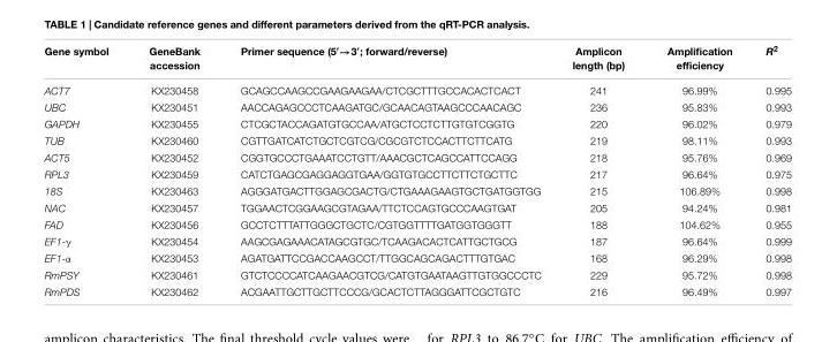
<table><thead><tr><td>Gene symbol</td><td>GeneBank accession</td><td>Primer sequence (5′→3′; forward/reverse)</td><td>Amplicon length (bp)</td><td>Amplification efficiency</td><td>R<sup>2</sup></td></tr></thead><tbody><tr><td>ACT7</td><td>KX230458</td><td>GCAGCCAAGCCGAAGAAGAA/CTCGCTTTGCCACACTCACT</td><td>241</td><td>96.99%</td><td>0.995</td></tr><tr><td>UBC</td><td>KX230451</td><td>AACCAGAGCCCTCAAGATGC/GCAACAGTAAGCCCAACAGC</td><td>236</td><td>95.83%</td><td>0.993</td></tr><tr><td>GAPDH</td><td>KX230455</td><td>CTCGCTACCAGATGTGCCAA/ATGCTCCTCTTGTGTCGGTG</td><td>220</td><td>96.02%</td><td>0.979</td></tr><tr><td>TUB</td><td>KX230460</td><td>CGTTGATCATCTGCTCGTCG/CGCGTCTCCACTTCTTCATG</td><td>219</td><td>98.11%</td><td>0.993</td></tr><tr><td>ACT5</td><td>KX230452</td><td>CGGTGCCCTGAAATCCTGTT/AAACGCTCAGCCATTCCAGG</td><td>218</td><td>95.76%</td><td>0.969</td></tr><tr><td>RPL3</td><td>KX230459</td><td>CATCTGAGCGAGGAGGTGAA/GGTGTGCCTTCTTCTGCTTC</td><td>217</td><td>96.64%</td><td>0.975</td></tr><tr><td>18S</td><td>KX230463</td><td>AGGGATGACTTGGAGCGACTG/CTGAAAGAAGTGCTGATGGTGG</td><td>215</td><td>106.89%</td><td>0.998</td></tr><tr><td>NAC</td><td>KX230457</td><td>TGGAACTCGGAAGCGTAGAA/TTCTCCAGTGCCCAAGTGAT</td><td>205</td><td>94.24%</td><td>0.981</td></tr><tr><td>FAD</td><td>KX230456</td><td>GCCTCTTTATTGGGCTGCTC/CGTGGTTTTGATGGTGGGTT</td><td>188</td><td>104.62%</td><td>0.955</td></tr><tr><td>EF1-γ</td><td>KX230454</td><td>AAGCGAGAAACATAGCGTGC/TCAAGACACTCATTGCTGCG</td><td>187</td><td>96.64%</td><td>0.999</td></tr><tr><td>EF1-α</td><td>KX230453</td><td>AGATGATTCCGACCAAGCCT/TTGGCAGCAGACTTTGTGAC</td><td>168</td><td>96.29%</td><td>0.998</td></tr><tr><td>RmPSY</td><td>KX230461</td><td>GTCTCCCCATCAAGAACGTCG/CATGTGAATAAGTTGTGGCCCTC</td><td>229</td><td>95.72%</td><td>0.998</td></tr><tr><td>RmPDS</td><td>KX230462</td><td>ACGAATTGCTTGCTTCCCG/GCACTCTTAGGGATTCGCTGTC</td><td>216</td><td>96.49%</td><td>0.997</td></tr></tbody></table>